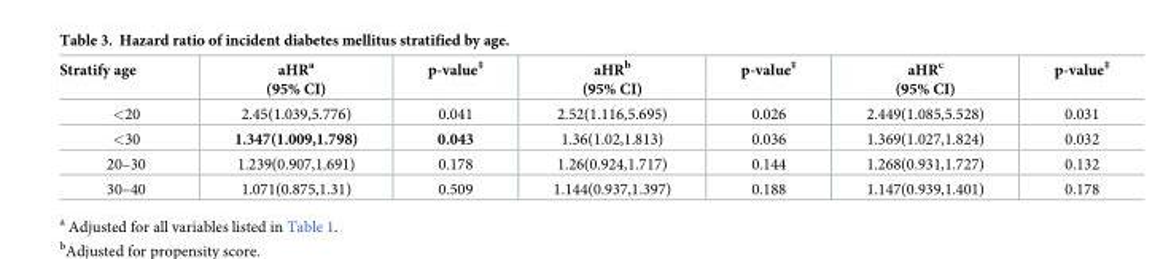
<table><thead><tr><td>Stratify age</td><td>aHR<sup>a</sup> (95% CI)</td><td>p-value<sup>‡</sup></td><td>aHR<sup>b</sup> (95% CI)</td><td>p-value<sup>‡</sup></td><td>aHR<sup>c</sup> (95% CI)</td><td>p-value<sup>‡</sup></td></tr></thead><tbody><tr><td>&lt;20</td><td>2.45(1.039,5.776)</td><td>0.041</td><td>2.52(1.116,5.695)</td><td>0.026</td><td>2.449(1.085,5.528)</td><td>0.031</td></tr><tr><td>&lt;30</td><td>1.347(1.009,1.798)</td><td>0.043</td><td>1.36(1.02,1.813)</td><td>0.036</td><td>1.369(1.027,1.824)</td><td>0.032</td></tr><tr><td>20–30</td><td>1.239(0.907,1.691)</td><td>0.178</td><td>1.26(0.924,1.717)</td><td>0.144</td><td>1.268(0.931,1.727)</td><td>0.132</td></tr><tr><td>30–40</td><td>1.071(0.875,1.31)</td><td>0.509</td><td>1.144(0.937,1.397)</td><td>0.188</td><td>1.147(0.939,1.401)</td><td>0.178</td></tr></tbody></table>